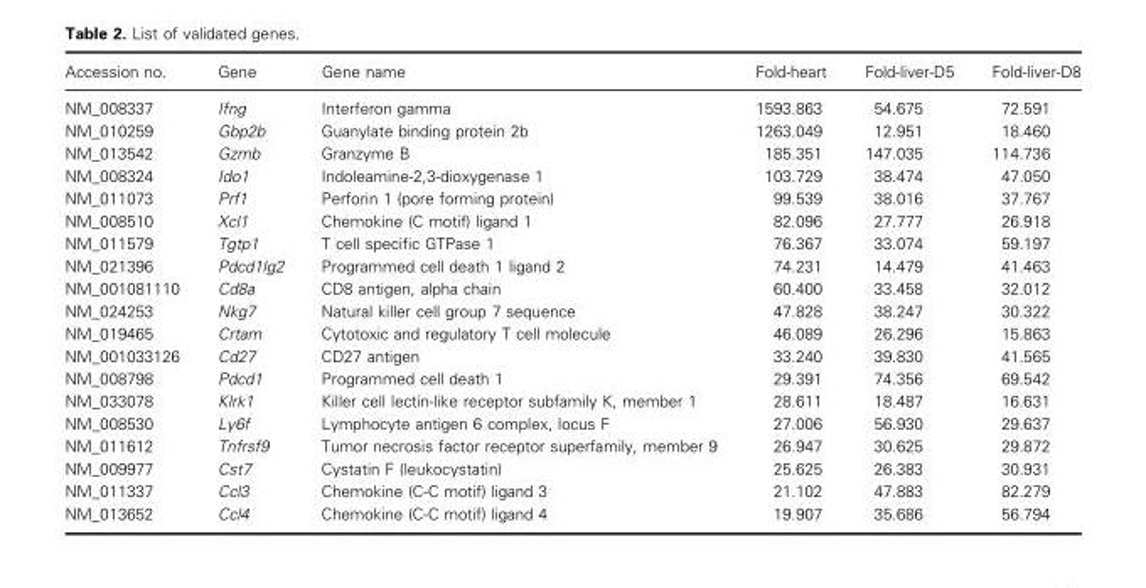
<table><thead><tr><td>Accession no.</td><td>Gene</td><td>Gene name</td><td>Fold-heart</td><td>Fold-liver-D5</td><td>Fold-liver-D8</td></tr></thead><tbody><tr><td>NM_008337</td><td>Ifng</td><td>Interferon gamma</td><td>1593.863</td><td>54.675</td><td>72.591</td></tr><tr><td>NM_010259</td><td>Gbp2b</td><td>Guanylate binding protein 2b</td><td>1263.049</td><td>12.951</td><td>18.460</td></tr><tr><td>NM_013542</td><td>Gzmb</td><td>Granzyme B</td><td>185.351</td><td>147.035</td><td>114.736</td></tr><tr><td>NM_008324</td><td>Ido1</td><td>Indoleamine-2,3-dioxygenase 1</td><td>103.729</td><td>38.474</td><td>47.050</td></tr><tr><td>NM_011073</td><td>Prf1</td><td>Perforin 1 (pore forming protein)</td><td>99.539</td><td>38.016</td><td>37.767</td></tr><tr><td>NM_008510</td><td>Xcl1</td><td>Chemokine (C motif) ligand 1</td><td>82.096</td><td>27.777</td><td>26.918</td></tr><tr><td>NM_011579</td><td>Tgtp1</td><td>T cell specific GTPase 1</td><td>76.367</td><td>33.074</td><td>59.197</td></tr><tr><td>NM_021396</td><td>Pdcd1lg2</td><td>Programmed cell death 1 ligand 2</td><td>74.231</td><td>14.479</td><td>41.463</td></tr><tr><td>NM_001081110</td><td>Cd8a</td><td>CD8 antigen, alpha chain</td><td>60.400</td><td>33.458</td><td>32.012</td></tr><tr><td>NM_024253</td><td>Nkg7</td><td>Natural killer cell group 7 sequence</td><td>47.828</td><td>38.247</td><td>30.322</td></tr><tr><td>NM_019465</td><td>Crtam</td><td>Cytotoxic and regulatory T cell molecule</td><td>46.089</td><td>26.296</td><td>15.863</td></tr><tr><td>NM_001033126</td><td>Cd27</td><td>CD27 antigen</td><td>33.240</td><td>39.830</td><td>41.565</td></tr><tr><td>NM_008798</td><td>Pdcd1</td><td>Programmed cell death 1</td><td>29.391</td><td>74.356</td><td>69.542</td></tr><tr><td>NM_033078</td><td>Klrk1</td><td>Killer cell lectin-like receptor subfamily K, member 1</td><td>28.611</td><td>18.487</td><td>16.631</td></tr><tr><td>NM_008530</td><td>Ly6f</td><td>Lymphocyte antigen 6 complex, locus F</td><td>27.006</td><td>56.930</td><td>29.637</td></tr><tr><td>NM_011612</td><td>Tnfrsf9</td><td>Tumor necrosis factor receptor superfamily, member 9</td><td>26.947</td><td>30.625</td><td>29.872</td></tr><tr><td>NM_009977</td><td>Cst7</td><td>Cystatin F (leukocystatin)</td><td>25.625</td><td>26.383</td><td>30.931</td></tr><tr><td>NM_011337</td><td>Ccl3</td><td>Chemokine (C-C motif) ligand 3</td><td>21.102</td><td>47.883</td><td>82.279</td></tr><tr><td>NM_013652</td><td>Ccl4</td><td>Chemokine (C-C motif) ligand 4</td><td>19.907</td><td>35.686</td><td>56.794</td></tr></tbody></table>